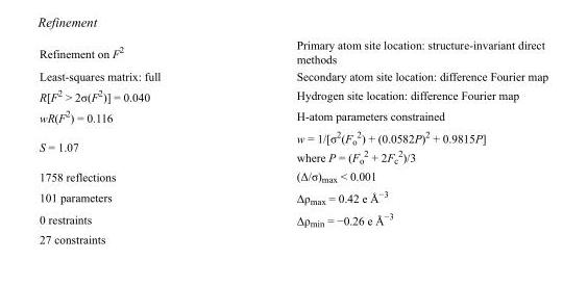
<table><tbody><tr><td>Refinement on F<sup>2</sup></td><td>Primary atom site location: structure-invariant direct methods</td></tr><tr><td>Least-squares matrix: full</td><td>Secondary atom site location: difference Fourier map</td></tr><tr><td>R[F<sup>2</sup> &gt; 2σ(F<sup>2</sup>)] = 0.040</td><td>Hydrogen site location: difference Fourier map</td></tr><tr><td>wR(F<sup>2</sup>) = 0.116</td><td>H-atom parameters constrained</td></tr><tr><td>S = 1.07</td><td>w = 1/[σ<sup>2</sup>(F<sub>o</sub> <sup>2</sup>) + (0.0582P)<sup>2</sup> + 0.9815P] where P = (F<sub>o</sub> <sup>2</sup> + 2F<sub>c</sub> <sup>2</sup>)/3</td></tr><tr><td>1758 reflections</td><td>(Δ/σ)<sub>max</sub> &lt; 0.001</td></tr><tr><td>101 parameters</td><td>Δρ<sub>max</sub> = 0.42 e Å<sup>−3</sup></td></tr><tr><td>0 restraints</td><td>Δρ<sub>min</sub> = −0.26 e Å<sup>−3</sup></td></tr><tr><td>27 constraints</td><td></td></tr></tbody></table>